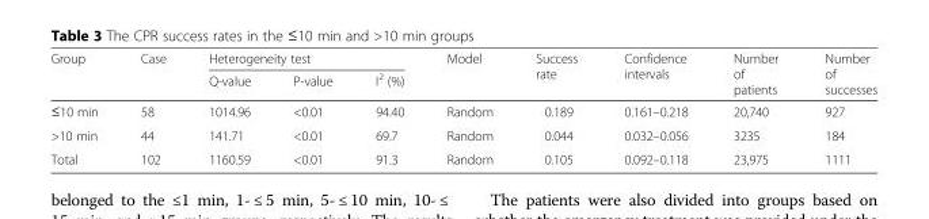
<table><thead><tr><td rowspan="2">Group</td><td rowspan="2">Case</td><td colspan="3">Heterogeneity test</td><td rowspan="2">Model</td><td rowspan="2">Success rate</td><td rowspan="2">Confidence intervals</td><td rowspan="2">Number of patients</td><td rowspan="2">Number of successes</td></tr><tr><td>Q-value</td><td>P-value</td><td>I<sup>2</sup> (%)</td></tr></thead><tbody><tr><td>≤10 min</td><td>58</td><td>1014.96</td><td>&lt;0.01</td><td>94.40</td><td>Random</td><td>0.189</td><td>0.161–0.218</td><td>20,740</td><td>927</td></tr><tr><td>&gt;10 min</td><td>44</td><td>141.71</td><td>&lt;0.01</td><td>69.7</td><td>Random</td><td>0.044</td><td>0.032–0.056</td><td>3235</td><td>184</td></tr><tr><td>Total</td><td>102</td><td>1160.59</td><td>&lt;0.01</td><td>91.3</td><td>Random</td><td>0.105</td><td>0.092–0.118</td><td>23,975</td><td>1111</td></tr></tbody></table>